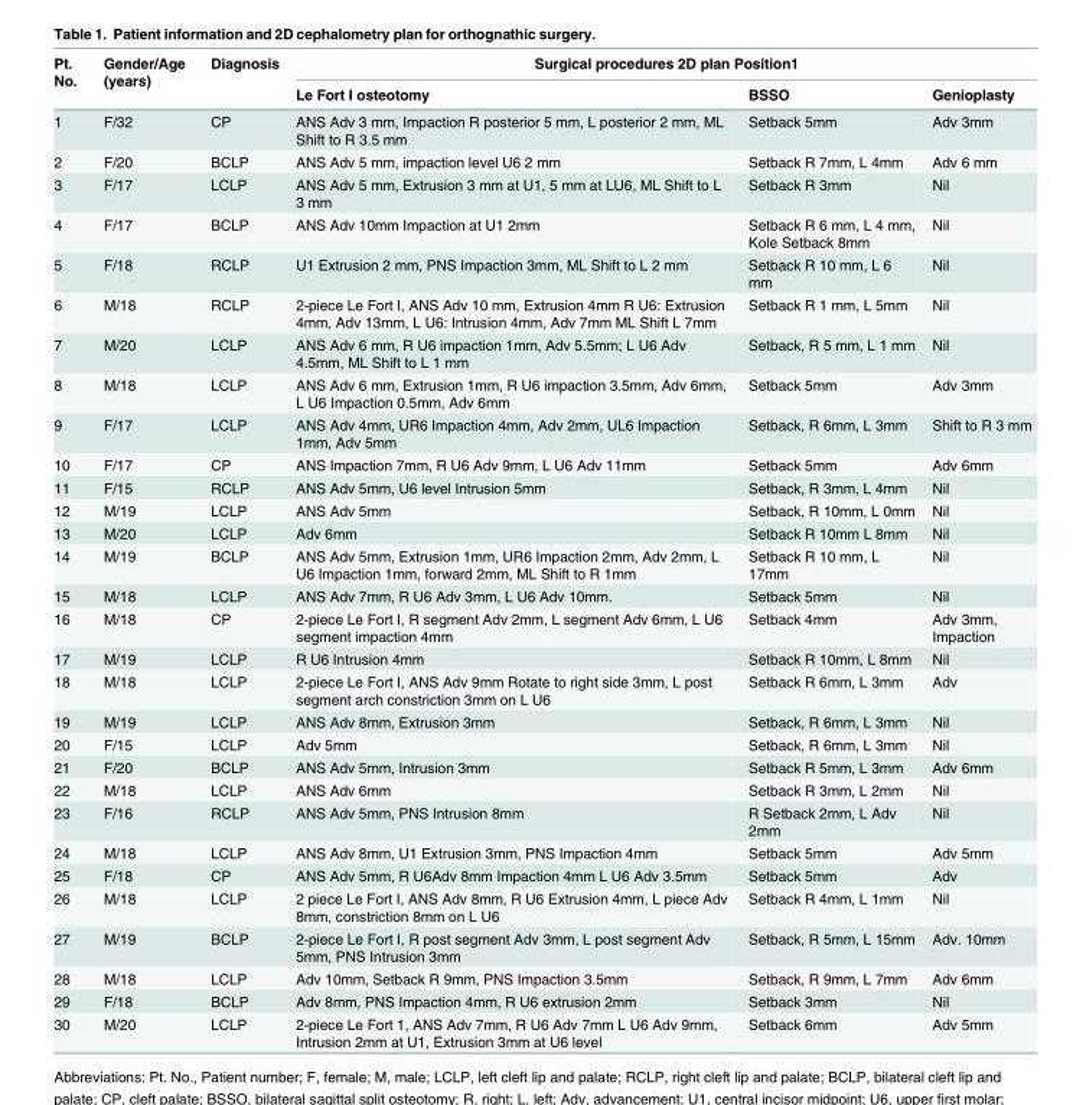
<table><thead><tr><td rowspan="2">Pt. No.</td><td rowspan="2">Gender/Age (years)</td><td rowspan="2">Diagnosis</td><td colspan="3">Surgical procedures 2D plan Position1</td></tr><tr><td>Le Fort I osteotomy</td><td>BSSO</td><td>Genioplasty</td></tr></thead><tbody><tr><td>1</td><td>F/32</td><td>CP</td><td>ANS Adv 3 mm, Impaction R posterior 5 mm, L posterior 2 mm, ML Shift to R 3.5 mm</td><td>Setback 5mm</td><td>Adv 3mm</td></tr><tr><td>2</td><td>F/20</td><td>BCLP</td><td>ANS Adv 5 mm, impaction level U6 2 mm</td><td>Setback R 7mm, L 4mm</td><td>Adv 6 mm</td></tr><tr><td>3</td><td>F/17</td><td>LCLP</td><td>ANS Adv 5 mm, Extrusion 3 mm at U1, 5 mm at LU6, ML Shift to L 3 mm</td><td>Setback R 3mm</td><td>Nil</td></tr><tr><td>4</td><td>F/17</td><td>BCLP</td><td>ANS Adv 10mm Impaction at U1 2mm</td><td>Setback R 6 mm, L 4 mm, Kole Setback 8mm</td><td>Nil</td></tr><tr><td>5</td><td>F/18</td><td>RCLP</td><td>U1 Extrusion 2 mm, PNS Impaction 3mm, ML Shift to L 2 mm</td><td>Setback R 10 mm, L 6 mm</td><td>Nil</td></tr><tr><td>6</td><td>M/18</td><td>RCLP</td><td>2-piece Le Fort I, ANS Adv 10 mm, Extrusion 4mm R U6: Extrusion 4mm, Adv 13mm, L U6: Intrusion 4mm, Adv 7mm ML Shift L 7mm</td><td>Setback R 1 mm, L 5mm</td><td>Nil</td></tr><tr><td>7</td><td>M/20</td><td>LCLP</td><td>ANS Adv 6 mm, R U6 impaction 1mm, Adv 5.5mm; L U6 Adv 4.5mm, ML Shift to L 1 mm</td><td>Setback, R 5 mm, L 1 mm</td><td>Nil</td></tr><tr><td>8</td><td>M/18</td><td>LCLP</td><td>ANS Adv 6 mm, Extrusion 1mm, R U6 impaction 3.5mm, Adv 6mm, L U6 Impaction 0.5mm, Adv 6mm</td><td>Setback 5mm</td><td>Adv 3mm</td></tr><tr><td>9</td><td>F/17</td><td>LCLP</td><td>ANS Adv 4mm, UR6 Impaction 4mm, Adv 2mm, UL6 Impaction 1mm, Adv 5mm</td><td>Setback, R 6mm, L 3mm</td><td>Shift to R 3 mm</td></tr><tr><td>10</td><td>F/17</td><td>CP</td><td>ANS Impaction 7mm, R U6 Adv 9mm, L U6 Adv 11mm</td><td>Setback 5mm</td><td>Adv 6mm</td></tr><tr><td>11</td><td>F/15</td><td>RCLP</td><td>ANS Adv 5mm, U6 level Intrusion 5mm</td><td>Setback, R 3mm, L 4mm</td><td>Nil</td></tr><tr><td>12</td><td>M/19</td><td>LCLP</td><td>ANS Adv 5mm</td><td>Setback, R 10mm, L 0mm</td><td>Nil</td></tr><tr><td>13</td><td>M/20</td><td>LCLP</td><td>Adv 6mm</td><td>Setback R 10mm L 8mm</td><td>Nil</td></tr><tr><td>14</td><td>M/19</td><td>BCLP</td><td>ANS Adv 5mm, Extrusion 1mm, UR6 Impaction 2mm, Adv 2mm, L U6 Impaction 1mm, forward 2mm, ML Shift to R 1mm</td><td>Setback R 10 mm, L 17mm</td><td>Nil</td></tr><tr><td>15</td><td>M/18</td><td>LCLP</td><td>ANS Adv 7mm, R U6 Adv 3mm, L U6 Adv 10mm.</td><td>Setback 5mm</td><td>Nil</td></tr><tr><td>16</td><td>M/18</td><td>CP</td><td>2-piece Le Fort I, R segment Adv 2mm, L segment Adv 6mm, L U6 segment impaction 4mm</td><td>Setback 4mm</td><td>Adv 3mm, Impaction</td></tr><tr><td>17</td><td>M/19</td><td>LCLP</td><td>R U6 Intrusion 4mm</td><td>Setback R 10mm, L 8mm</td><td>Nil</td></tr><tr><td>18</td><td>M/18</td><td>LCLP</td><td>2-piece Le Fort I, ANS Adv 9mm Rotate to right side 3mm, L post segment arch constriction 3mm on L U6</td><td>Setback R 6mm, L 3mm</td><td>Adv</td></tr><tr><td>19</td><td>M/19</td><td>LCLP</td><td>ANS Adv 8mm, Extrusion 3mm</td><td>Setback, R 6mm, L 3mm</td><td>Nil</td></tr><tr><td>20</td><td>F/15</td><td>LCLP</td><td>Adv 5mm</td><td>Setback, R 6mm, L 3mm</td><td>Nil</td></tr><tr><td>21</td><td>F/20</td><td>BCLP</td><td>ANS Adv 5mm, Intrusion 3mm</td><td>Setback R 5mm, L 3mm</td><td>Adv 6mm</td></tr><tr><td>22</td><td>M/18</td><td>LCLP</td><td>ANS Adv 6mm</td><td>Setback R 3mm, L 2mm</td><td>Nil</td></tr><tr><td>23</td><td>F/16</td><td>RCLP</td><td>ANS Adv 5mm, PNS Intrusion 8mm</td><td>R Setback 2mm, L Adv 2mm</td><td>Nil</td></tr><tr><td>24</td><td>M/18</td><td>LCLP</td><td>ANS Adv 8mm, U1 Extrusion 3mm, PNS Impaction 4mm</td><td>Setback 5mm</td><td>Adv 5mm</td></tr><tr><td>25</td><td>F/18</td><td>CP</td><td>ANS Adv 5mm, R U6Adv 8mm Impaction 4mm L U6 Adv 3.5mm</td><td>Setback 5mm</td><td>Adv</td></tr><tr><td>26</td><td>M/18</td><td>LCLP</td><td>2 piece Le Fort I, ANS Adv 8mm, R U6 Extrusion 4mm, L piece Adv 8mm, constriction 8mm on L U6</td><td>Setback R 4mm, L 1mm</td><td>Nil</td></tr><tr><td>27</td><td>M/19</td><td>BCLP</td><td>2-piece Le Fort I, R post segment Adv 3mm, L post segment Adv 5mm, PNS Intrusion 3mm</td><td>Setback, R 5mm, L 15mm</td><td>Adv. 10mm</td></tr><tr><td>28</td><td>M/18</td><td>LCLP</td><td>Adv 10mm, Setback R 9mm, PNS Impaction 3.5mm</td><td>Setback, R 9mm, L 7mm</td><td>Adv 6mm</td></tr><tr><td>29</td><td>F/18</td><td>BCLP</td><td>Adv 8mm, PNS Impaction 4mm, R U6 extrusion 2mm</td><td>Setback 3mm</td><td>Nil</td></tr><tr><td>30</td><td>M/20</td><td>LCLP</td><td>2-piece Le Fort 1, ANS Adv 7mm, R U6 Adv 7mm L U6 Adv 9mm, Intrusion 2mm at U1, Extrusion 3mm at U6 level</td><td>Setback 6mm</td><td>Adv 5mm</td></tr></tbody></table>